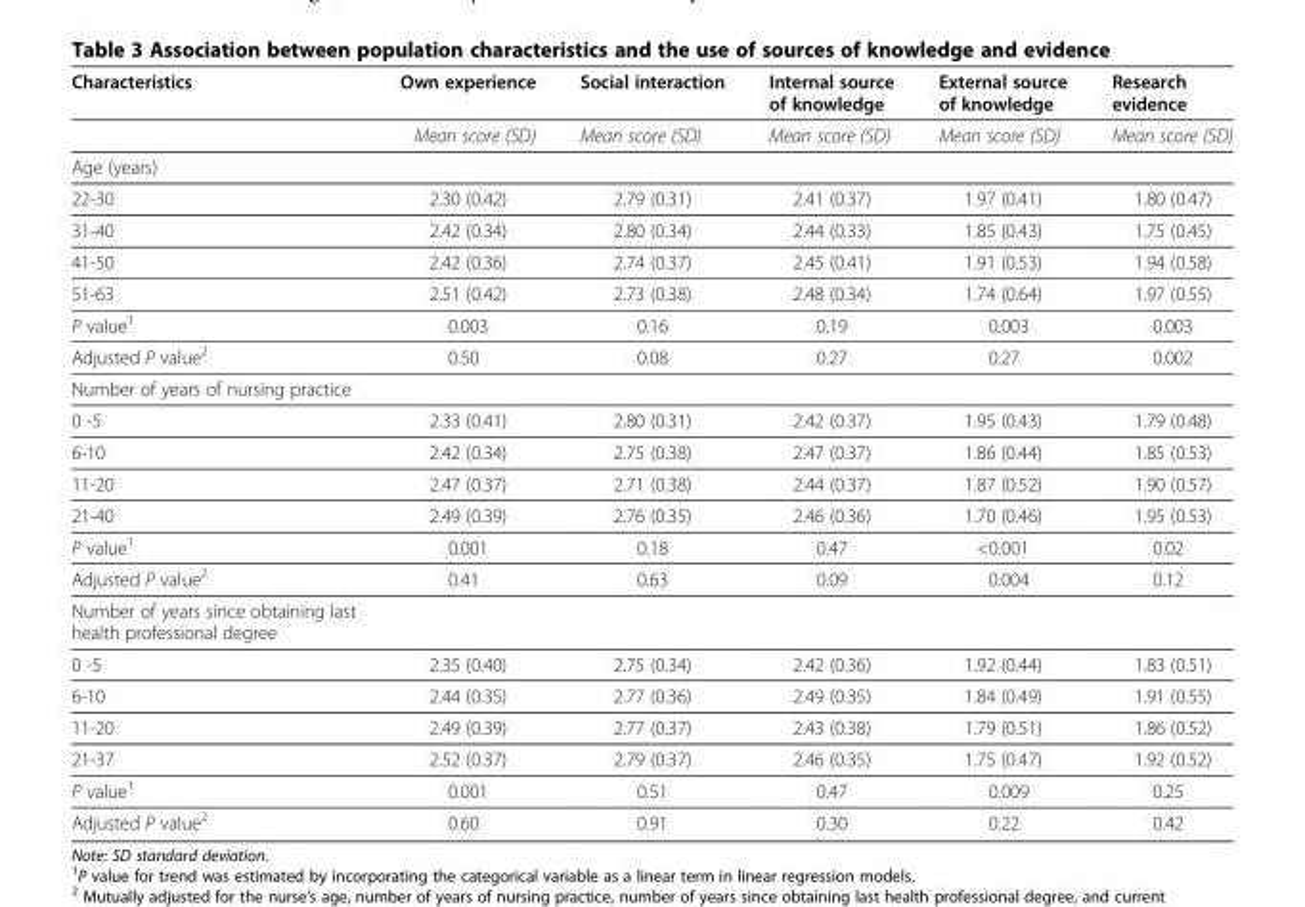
<table><thead><tr><td>Characteristics</td><td>Own experience</td><td>Social interaction</td><td>Internal source of knowledge</td><td>External source of knowledge</td><td>Research evidence</td></tr></thead><tbody><tr><td></td><td>Mean score (SD)</td><td>Mean score (SD)</td><td>Mean score (SD)</td><td>Mean score (SD)</td><td>Mean score (SD)</td></tr><tr><td colspan="6">Age (years)</td></tr><tr><td>22-30</td><td>2.30 (0.42)</td><td>2.79 (0.31)</td><td>2.41 (0.37)</td><td>1.97 (0.41)</td><td>1.80 (0.47)</td></tr><tr><td>31-40</td><td>2.42 (0.34)</td><td>2.80 (0.34)</td><td>2.44 (0.33)</td><td>1.85 (0.43)</td><td>1.75 (0.45)</td></tr><tr><td>41-50</td><td>2.42 (0.36)</td><td>2.74 (0.37)</td><td>2.45 (0.41)</td><td>1.91 (0.53)</td><td>1.94 (0.58)</td></tr><tr><td>51-63</td><td>2.51 (0.42)</td><td>2.73 (0.38)</td><td>2.48 (0.34)</td><td>1.74 (0.64)</td><td>1.97 (0.55)</td></tr><tr><td>P value<sup>1</sup></td><td>0.003</td><td>0.16</td><td>0.19</td><td>0.003</td><td>0.003</td></tr><tr><td>Adjusted P value<sup>2</sup></td><td>0.50</td><td>0.08</td><td>0.27</td><td>0.27</td><td>0.002</td></tr><tr><td colspan="6">Number of years of nursing practice</td></tr><tr><td>0 -5</td><td>2.33 (0.41)</td><td>2.80 (0.31)</td><td>2.42 (0.37)</td><td>1.95 (0.43)</td><td>1.79 (0.48)</td></tr><tr><td>6-10</td><td>2.42 (0.34)</td><td>2.75 (0.38)</td><td>2.47 (0.37)</td><td>1.86 (0.44)</td><td>1.85 (0.53)</td></tr><tr><td>11-20</td><td>2.47 (0.37)</td><td>2.71 (0.38)</td><td>2.44 (0.37)</td><td>1.87 (0.52)</td><td>1.90 (0.57)</td></tr><tr><td>21-40</td><td>2.49 (0.39)</td><td>2.76 (0.35)</td><td>2.46 (0.36)</td><td>1.70 (0.46)</td><td>1.95 (0.53)</td></tr><tr><td>P value<sup>1</sup></td><td>0.001</td><td>0.18</td><td>0.47</td><td>&lt;0.001</td><td>0.02</td></tr><tr><td>Adjusted P value<sup>2</sup></td><td>0.41</td><td>0.63</td><td>0.09</td><td>0.004</td><td>0.12</td></tr><tr><td colspan="6">Number of years since obtaining last health professional degree</td></tr><tr><td>0 -5</td><td>2.35 (0.40)</td><td>2.75 (0.34)</td><td>2.42 (0.36)</td><td>1.92 (0.44)</td><td>1.83 (0.51)</td></tr><tr><td>6-10</td><td>2.44 (0.35)</td><td>2.77 (0.36)</td><td>2.49 (0.35)</td><td>1.84 (0.49)</td><td>1.91 (0.55)</td></tr><tr><td>11-20</td><td>2.49 (0.39)</td><td>2.77 (0.37)</td><td>2.43 (0.38)</td><td>1.79 (0.51)</td><td>1.86 (0.52)</td></tr><tr><td>21-37</td><td>2.52 (0.37)</td><td>2.79 (0.37)</td><td>2.46 (0.35)</td><td>1.75 (0.47)</td><td>1.92 (0.52)</td></tr><tr><td>P value<sup>1</sup></td><td>0.001</td><td>0.51</td><td>0.47</td><td>0.009</td><td>0.25</td></tr><tr><td>Adjusted P value<sup>2</sup></td><td>0.60</td><td>0.91</td><td>0.30</td><td>0.22</td><td>0.42</td></tr></tbody></table>